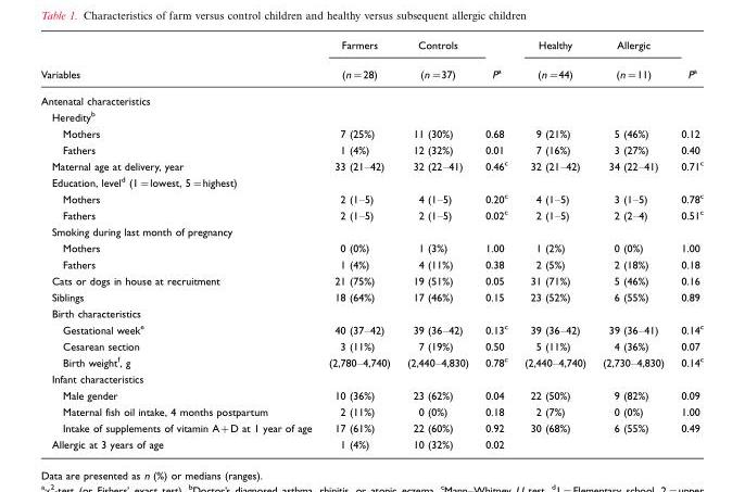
<table><thead><tr><td rowspan="2">Variables</td><td rowspan="2">Farmers (n=28)</td><td rowspan="2">Controls (n=37)</td><td rowspan="2">P<sup>a</sup></td><td rowspan="2">Healthy (n=44)</td><td rowspan="2">Allergic (n=11)</td><td rowspan="2">P<sup>a</sup></td></tr><tr></tr></thead><tbody><tr><td colspan="7">Antenatal characteristics</td></tr><tr><td colspan="7">Heredity<sup>b</sup></td></tr><tr><td>Mothers</td><td>7 (25%)</td><td>11 (30%)</td><td>0.68</td><td>9 (21%)</td><td>5 (46%)</td><td>0.12</td></tr><tr><td>Fathers</td><td>1 (4%)</td><td>12 (32%)</td><td>0.01</td><td>7 (16%)</td><td>3 (27%)</td><td>0.40</td></tr><tr><td>Maternal age at delivery, year</td><td>33 (21–42)</td><td>32 (22–41)</td><td>0.46<sup>c</sup></td><td>32 (21–42)</td><td>34 (22–41)</td><td>0.71<sup>c</sup></td></tr><tr><td colspan="7">Education, level<sup>d</sup> (1=lowest, 5=highest)</td></tr><tr><td>Mothers</td><td>2 (1–5)</td><td>4 (1–5)</td><td>0.20<sup>c</sup></td><td>4 (1–5)</td><td>3 (1–5)</td><td>0.78<sup>c</sup></td></tr><tr><td>Fathers</td><td>2 (1–5)</td><td>2 (1–5)</td><td>0.02<sup>c</sup></td><td>2 (1–5)</td><td>2 (2–4)</td><td>0.51<sup>c</sup></td></tr><tr><td colspan="7">Smoking during last month of pregnancy</td></tr><tr><td>Mothers</td><td>0 (0%)</td><td>1 (3%)</td><td>1.00</td><td>1 (2%)</td><td>0 (0%)</td><td>1.00</td></tr><tr><td>Fathers</td><td>1 (4%)</td><td>4 (11%)</td><td>0.38</td><td>2 (5%)</td><td>2 (18%)</td><td>0.18</td></tr><tr><td>Cats or dogs in house at recruitment</td><td>21 (75%)</td><td>19 (51%)</td><td>0.05</td><td>31 (71%)</td><td>5 (46%)</td><td>0.16</td></tr><tr><td>Siblings</td><td>18 (64%)</td><td>17 (46%)</td><td>0.15</td><td>23 (52%)</td><td>6 (55%)</td><td>0.89</td></tr><tr><td colspan="7">Birth characteristics</td></tr><tr><td>Gestational week<sup>e</sup></td><td>40 (37–42)</td><td>39 (36–42)</td><td>0.13<sup>c</sup></td><td>39 (36–42)</td><td>39 (36–41)</td><td>0.14<sup>c</sup></td></tr><tr><td>Cesarean section</td><td>3 (11%)</td><td>7 (19%)</td><td>0.50</td><td>5 (11%)</td><td>4 (36%)</td><td>0.07</td></tr><tr><td>Birth weight<sup>f</sup>, g</td><td>(2,780–4,740)</td><td>(2,440–4,830)</td><td>0.78<sup>c</sup></td><td>(2,440–4,740)</td><td>(2,730–4,830)</td><td>0.14<sup>c</sup></td></tr><tr><td colspan="7">Infant characteristics</td></tr><tr><td>Male gender</td><td>10 (36%)</td><td>23 (62%)</td><td>0.04</td><td>22 (50%)</td><td>9 (82%)</td><td>0.09</td></tr><tr><td>Maternal fish oil intake, 4 months postpartum</td><td>2 (11%)</td><td>0 (0%)</td><td>0.18</td><td>2 (7%)</td><td>0 (0%)</td><td>1.00</td></tr><tr><td>Intake of supplements of vitamin A+D at 1 year of age</td><td>17 (61%)</td><td>22 (60%)</td><td>0.92</td><td>30 (68%)</td><td>6 (55%)</td><td>0.49</td></tr><tr><td>Allergic at 3 years of age</td><td>1 (4%)</td><td>10 (32%)</td><td>0.02</td><td></td><td></td><td></td></tr></tbody></table>